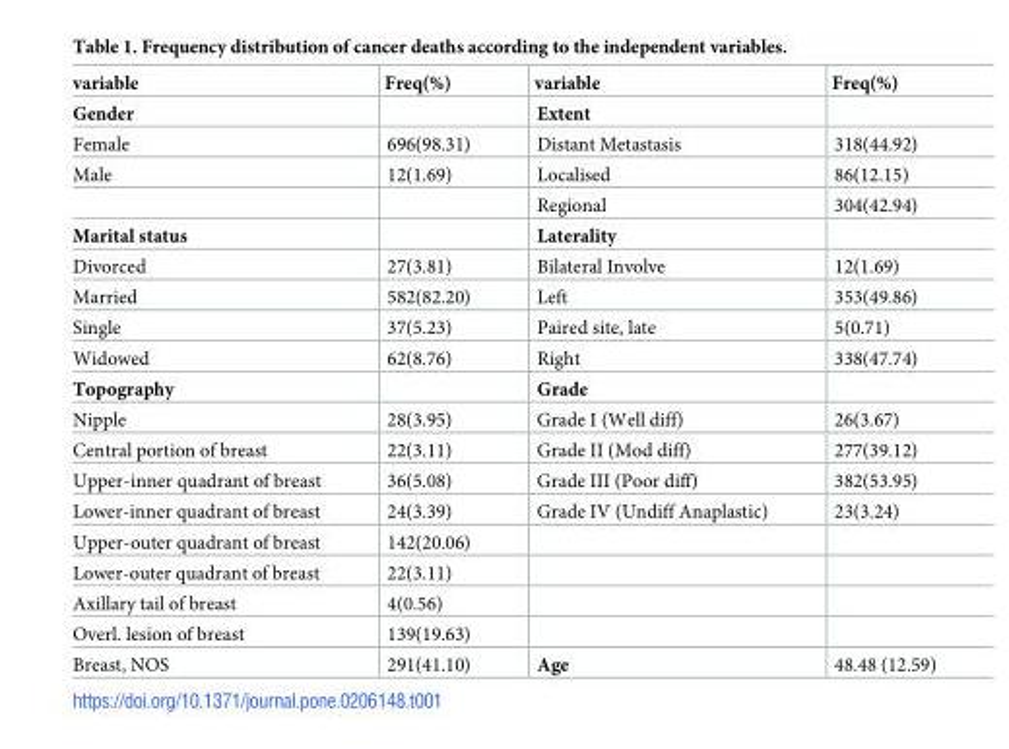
<table><thead><tr><td>variable</td><td>Freq(%)</td><td>variable</td><td>Freq(%)</td></tr></thead><tbody><tr><td>Gender</td><td></td><td>Extent</td><td></td></tr><tr><td>Female</td><td>696(98.31)</td><td>Distant Metastasis</td><td>318(44.92)</td></tr><tr><td rowspan="2">Male</td><td>12(1.69)</td><td>Localised</td><td>86(12.15)</td></tr><tr><td></td><td>Regional</td><td>304(42.94)</td></tr><tr><td>Marital status</td><td></td><td>Laterality</td><td></td></tr><tr><td>Divorced</td><td>27(3.81)</td><td>Bilateral Involve</td><td>12(1.69)</td></tr><tr><td>Married</td><td>582(82.20)</td><td>Left</td><td>353(49.86)</td></tr><tr><td>Single</td><td>37(5.23)</td><td>Paired site, late</td><td>5(0.71)</td></tr><tr><td>Widowed</td><td>62(8.76)</td><td>Right</td><td>338(47.74)</td></tr><tr><td>Topography</td><td></td><td>Grade</td><td></td></tr><tr><td>Nipple</td><td>28(3.95)</td><td>Grade I (Well diff)</td><td>26(3.67)</td></tr><tr><td>Central portion of breast</td><td>22(3.11)</td><td>Grade II (Mod diff)</td><td>277(39.12)</td></tr><tr><td>Upper-inner quadrant of breast</td><td>36(5.08)</td><td>Grade III (Poor diff)</td><td>382(53.95)</td></tr><tr><td>Lower-inner quadrant of breast</td><td>24(3.39)</td><td>Grade IV (Undiff Anaplastic)</td><td>23(3.24)</td></tr><tr><td>Upper-outer quadrant of breast</td><td>142(20.06)</td><td></td><td></td></tr><tr><td>Lower-outer quadrant of breast</td><td>22(3.11)</td><td></td><td></td></tr><tr><td>Axillary tail of breast</td><td>4(0.56)</td><td></td><td></td></tr><tr><td>Overl. lesion of breast</td><td>139(19.63)</td><td></td><td></td></tr><tr><td>Breast, NOS</td><td>291(41.10)</td><td>Age</td><td>48.48 (12.59)</td></tr></tbody></table>